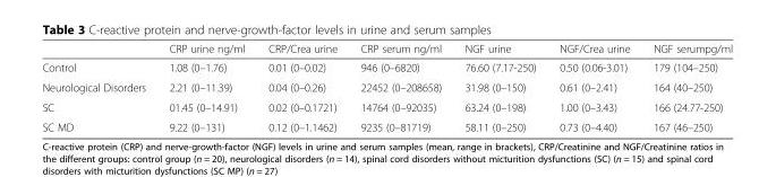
<table><thead><tr><td></td><td>CRP urine ng/ml</td><td>CRP/Crea urine</td><td>CRP serum ng/ml</td><td>NGF urine</td><td>NGF/Crea urine</td><td>NGF serumpg/ml</td></tr></thead><tbody><tr><td>Control</td><td>1.08 (0–1.76)</td><td>0.01 (0–0.02)</td><td>946 (0–6820)</td><td>76.60 (7.17-250)</td><td>0.50 (0.06-3.01)</td><td>179 (104–250)</td></tr><tr><td>Neurological Disorders</td><td>2.21 (0–11.39)</td><td>0.04 (0–0.26)</td><td>22452 (0–208658)</td><td>31.98 (0–150)</td><td>0.61 (0–2.41)</td><td>164 (40–250)</td></tr><tr><td>SC</td><td>01.45 (0–14.91)</td><td>0.02 (0–0.1721)</td><td>14764 (0–92035)</td><td>63.24 (0–198)</td><td>1.00 (0–3.43)</td><td>166 (24.77-250)</td></tr><tr><td>SC MD</td><td>9.22 (0–131)</td><td>0.12 (0–1.1462)</td><td>9235 (0–81719)</td><td>58.11 (0–250)</td><td>0.73 (0–4.40)</td><td>167 (46–250)</td></tr></tbody></table>